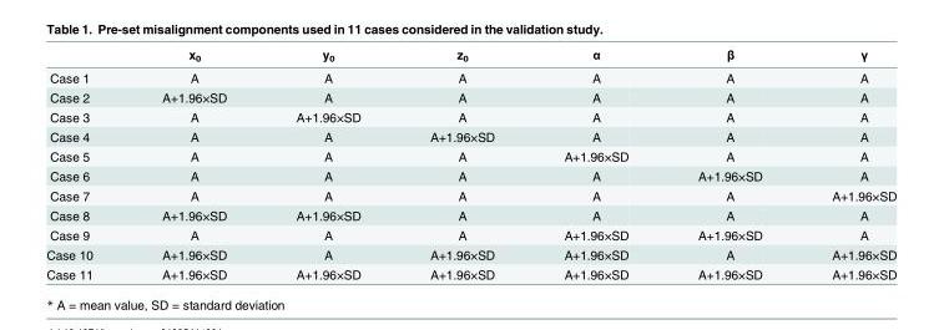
<table><thead><tr><td></td><td>x<sub>0</sub></td><td>y<sub>0</sub></td><td>z<sub>0</sub></td><td>α</td><td>β</td><td>γ</td></tr></thead><tbody><tr><td>Case 1</td><td>A</td><td>A</td><td>A</td><td>A</td><td>A</td><td>A</td></tr><tr><td>Case 2</td><td>A+1.96×SD</td><td>A</td><td>A</td><td>A</td><td>A</td><td>A</td></tr><tr><td>Case 3</td><td>A</td><td>A+1.96×SD</td><td>A</td><td>A</td><td>A</td><td>A</td></tr><tr><td>Case 4</td><td>A</td><td>A</td><td>A+1.96×SD</td><td>A</td><td>A</td><td>A</td></tr><tr><td>Case 5</td><td>A</td><td>A</td><td>A</td><td>A+1.96×SD</td><td>A</td><td>A</td></tr><tr><td>Case 6</td><td>A</td><td>A</td><td>A</td><td>A</td><td>A+1.96×SD</td><td>A</td></tr><tr><td>Case 7</td><td>A</td><td>A</td><td>A</td><td>A</td><td>A</td><td>A+1.96×SD</td></tr><tr><td>Case 8</td><td>A+1.96×SD</td><td>A+1.96×SD</td><td>A</td><td>A</td><td>A</td><td>A</td></tr><tr><td>Case 9</td><td>A</td><td>A</td><td>A</td><td>A+1.96×SD</td><td>A+1.96×SD</td><td>A</td></tr><tr><td>Case 10</td><td>A+1.96×SD</td><td>A</td><td>A+1.96×SD</td><td>A+1.96×SD</td><td>A</td><td>A+1.96×SD</td></tr><tr><td>Case 11</td><td>A+1.96×SD</td><td>A+1.96×SD</td><td>A+1.96×SD</td><td>A+1.96×SD</td><td>A+1.96×SD</td><td>A+1.96×SD</td></tr></tbody></table>